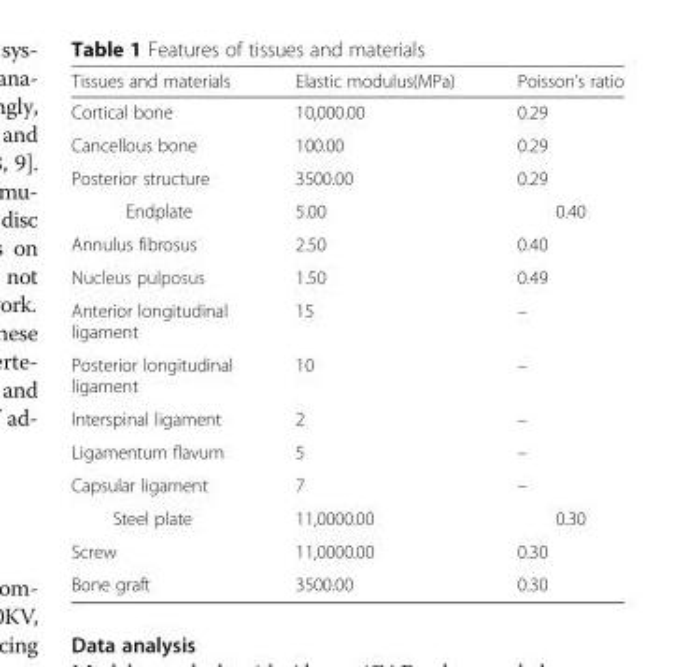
<table><thead><tr><td>Tissues and materials</td><td>Elastic modulus(MPa)</td><td>Poisson’s ratio</td></tr></thead><tbody><tr><td>Cortical bone</td><td>10,000.00</td><td>0.29</td></tr><tr><td>Cancellous bone</td><td>100.00</td><td>0.29</td></tr><tr><td>Posterior structure</td><td>3500.00</td><td>0.29</td></tr><tr><td>Endplate</td><td>5.00</td><td>0.40</td></tr><tr><td>Annulus fibrosus</td><td>2.50</td><td>0.40</td></tr><tr><td>Nucleus pulposus</td><td>1.50</td><td>0.49</td></tr><tr><td>Anterior longitudinal ligament</td><td>15</td><td>–</td></tr><tr><td>Posterior longitudinal ligament</td><td>10</td><td>–</td></tr><tr><td>Interspinal ligament</td><td>2</td><td>–</td></tr><tr><td>Ligamentum flavum</td><td>5</td><td>–</td></tr><tr><td>Capsular ligament</td><td>7</td><td>–</td></tr><tr><td>Steel plate</td><td>11,0000.00</td><td>0.30</td></tr><tr><td>Screw</td><td>11,0000.00</td><td>0.30</td></tr><tr><td>Bone graft</td><td>3500.00</td><td>0.30</td></tr></tbody></table>